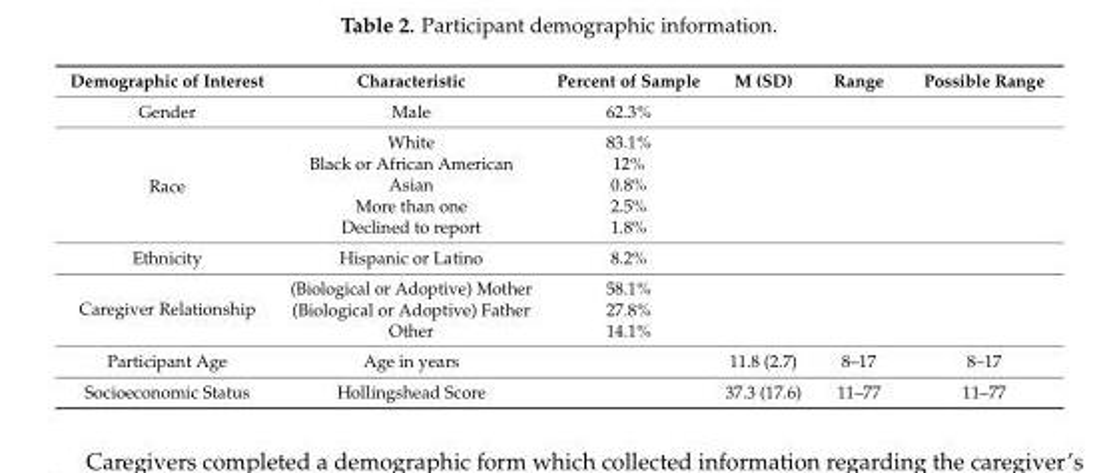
<table><thead><tr><td>Demographic of Interest</td><td>Characteristic</td><td>Percent of Sample</td><td>M (SD)</td><td>Range</td><td>Possible Range</td></tr></thead><tbody><tr><td>Gender</td><td>Male</td><td>62.3%</td><td></td><td></td><td></td></tr><tr><td rowspan="5">Race</td><td>White</td><td>83.1%</td><td></td><td></td><td></td></tr><tr><td>Black or African American</td><td>12%</td><td></td><td></td><td></td></tr><tr><td>Asian</td><td>0.8%</td><td></td><td></td><td></td></tr><tr><td>More than one</td><td>2.5%</td><td></td><td></td><td></td></tr><tr><td>Declined to report</td><td>1.8%</td><td></td><td></td><td></td></tr><tr><td>Ethnicity</td><td>Hispanic or Latino</td><td>8.2%</td><td></td><td></td><td></td></tr><tr><td rowspan="3">Caregiver Relationship</td><td>(Biological or Adoptive) Mother</td><td>58.1%</td><td></td><td></td><td></td></tr><tr><td>(Biological or Adoptive) Father</td><td>27.8%</td><td></td><td></td><td></td></tr><tr><td>Other</td><td>14.1%</td><td></td><td></td><td></td></tr><tr><td>Participant Age</td><td>Age in years</td><td></td><td>11.8 (2.7)</td><td>8–17</td><td>8–17</td></tr><tr><td>Socioeconomic Status</td><td>Hollingshead Score</td><td></td><td>37.3 (17.6)</td><td>11–77</td><td>11–77</td></tr></tbody></table>